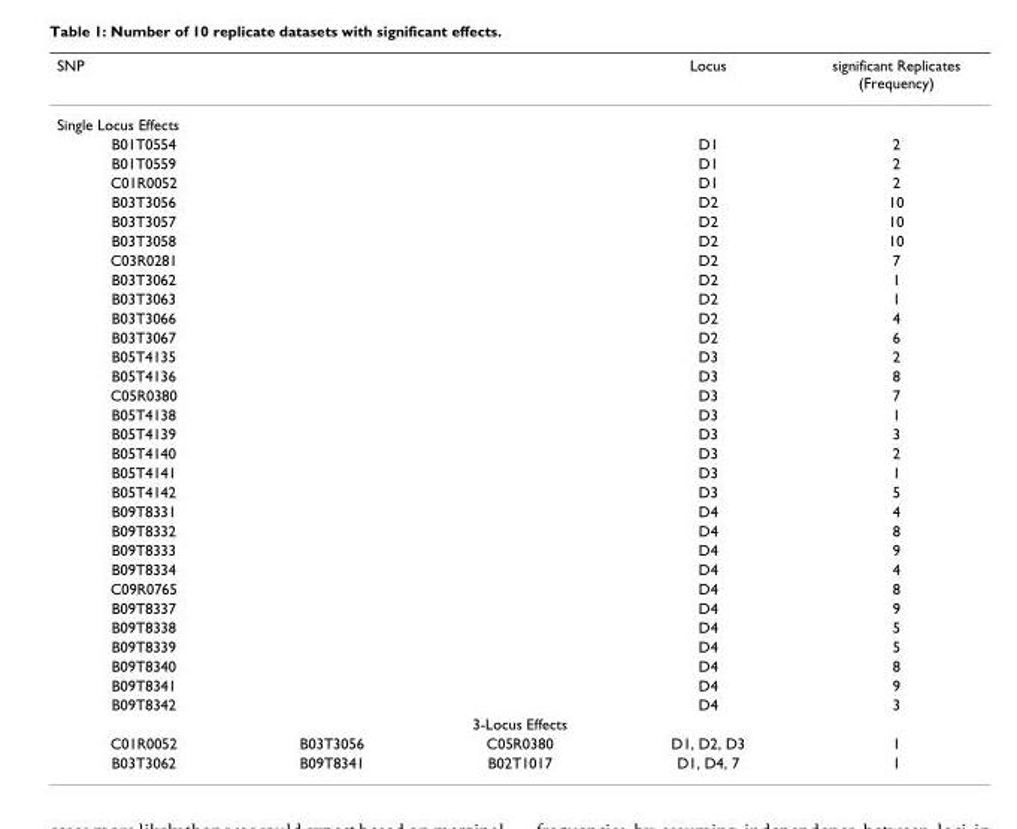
<table><thead><tr><td>SNP</td><td></td><td></td><td>Locus</td><td>significant Replicates (Frequency)</td></tr></thead><tbody><tr><td colspan="5">Single Locus Effects</td></tr><tr><td>B01T0554</td><td></td><td></td><td>D1</td><td>2</td></tr><tr><td>B01T0559</td><td></td><td></td><td>D1</td><td>2</td></tr><tr><td>C01R0052</td><td></td><td></td><td>D1</td><td>2</td></tr><tr><td>B03T3056</td><td></td><td></td><td>D2</td><td>10</td></tr><tr><td>B03T3057</td><td></td><td></td><td>D2</td><td>10</td></tr><tr><td>B03T3058</td><td></td><td></td><td>D2</td><td>10</td></tr><tr><td>C03R0281</td><td></td><td></td><td>D2</td><td>7</td></tr><tr><td>B03T3062</td><td></td><td></td><td>D2</td><td>1</td></tr><tr><td>B03T3063</td><td></td><td></td><td>D2</td><td>1</td></tr><tr><td>B03T3066</td><td></td><td></td><td>D2</td><td>4</td></tr><tr><td>B03T3067</td><td></td><td></td><td>D2</td><td>6</td></tr><tr><td>B05T4135</td><td></td><td></td><td>D3</td><td>2</td></tr><tr><td>B05T4136</td><td></td><td></td><td>D3</td><td>8</td></tr><tr><td>C05R0380</td><td></td><td></td><td>D3</td><td>7</td></tr><tr><td>B05T4138</td><td></td><td></td><td>D3</td><td>1</td></tr><tr><td>B05T4139</td><td></td><td></td><td>D3</td><td>3</td></tr><tr><td>B05T4140</td><td></td><td></td><td>D3</td><td>2</td></tr><tr><td>B05T4141</td><td></td><td></td><td>D3</td><td>1</td></tr><tr><td>B05T4142</td><td></td><td></td><td>D3</td><td>5</td></tr><tr><td>B09T8331</td><td></td><td></td><td>D4</td><td>4</td></tr><tr><td>B09T8332</td><td></td><td></td><td>D4</td><td>8</td></tr><tr><td>B09T8333</td><td></td><td></td><td>D4</td><td>9</td></tr><tr><td>B09T8334</td><td></td><td></td><td>D4</td><td>4</td></tr><tr><td>C09R0765</td><td></td><td></td><td>D4</td><td>8</td></tr><tr><td>B09T8337</td><td></td><td></td><td>D4</td><td>9</td></tr><tr><td>B09T8338</td><td></td><td></td><td>D4</td><td>5</td></tr><tr><td>B09T8339</td><td></td><td></td><td>D4</td><td>5</td></tr><tr><td>B09T8340</td><td></td><td></td><td>D4</td><td>8</td></tr><tr><td>B09T8341</td><td></td><td></td><td>D4</td><td>9</td></tr><tr><td>B09T8342</td><td></td><td></td><td>D4</td><td>3</td></tr><tr><td colspan="5">3-Locus Effects</td></tr><tr><td>C01R0052</td><td>B03T3056</td><td>C05R0380</td><td>D1, D2, D3</td><td>1</td></tr><tr><td>B03T3062</td><td>B09T8341</td><td>B02T1017</td><td>D1, D4, 7</td><td>1</td></tr></tbody></table>